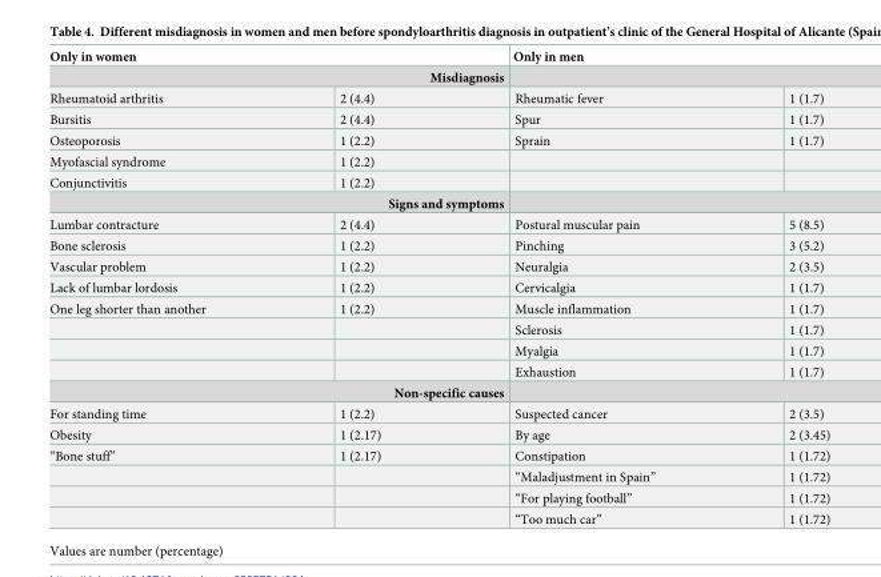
<table><thead><tr><td rowspan="2" colspan="2">Only in women Misdiagnosis</td><td rowspan="2" colspan="2">Only in men</td></tr><tr></tr><tr><td>Rheumatoid arthritis</td><td>2 (4.4)</td><td>Rheumatic fever</td><td>1 (1.7)</td></tr></thead><tbody><tr><td>Bursitis</td><td>2 (4.4)</td><td>Spur</td><td>1 (1.7)</td></tr><tr><td>Osteoporosis</td><td>1 (2.2)</td><td>Sprain</td><td>1 (1.7)</td></tr><tr><td>Myofascial syndrome</td><td>1 (2.2)</td><td></td><td></td></tr><tr><td>Conjunctivitis</td><td>1 (2.2)</td><td></td><td></td></tr><tr><td colspan="4">Signs and symptoms</td></tr><tr><td>Lumbar contracture</td><td>2 (4.4)</td><td>Postural muscular pain</td><td>5 (8.5)</td></tr><tr><td>Bone sclerosis</td><td>1 (2.2)</td><td>Pinching</td><td>3 (5.2)</td></tr><tr><td>Vascular problem</td><td>1 (2.2)</td><td>Neuralgia</td><td>2 (3.5)</td></tr><tr><td>Lack of lumbar lordosis</td><td>1 (2.2)</td><td>Cervicalgia</td><td>1 (1.7)</td></tr><tr><td rowspan="4">One leg shorter than another</td><td>1 (2.2)</td><td>Muscle inflammation</td><td>1 (1.7)</td></tr><tr><td></td><td>Sclerosis</td><td>1 (1.7)</td></tr><tr><td></td><td>Myalgia</td><td>1 (1.7)</td></tr><tr><td></td><td>Exhaustion</td><td>1 (1.7)</td></tr><tr><td colspan="4">Non-specific causes</td></tr><tr><td>For standing time</td><td>1 (2.2)</td><td>Suspected cancer</td><td>2 (3.5)</td></tr><tr><td>Obesity</td><td>1 (2.17)</td><td>By age</td><td>2 (3.45)</td></tr><tr><td rowspan="4">“Bone stuff”</td><td>1 (2.17)</td><td>Constipation</td><td>1 (1.72)</td></tr><tr><td></td><td>“Maladjustment in Spain”</td><td>1 (1.72)</td></tr><tr><td></td><td>“For playing football”</td><td>1 (1.72)</td></tr><tr><td></td><td>“Too much car”</td><td>1 (1.72)</td></tr></tbody></table>